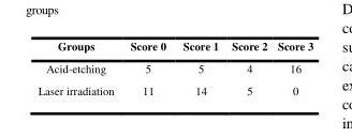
<table><thead><tr><td>Groups</td><td>Score 0</td><td>Score 1</td><td>Score 2</td><td>Score 3</td></tr></thead><tbody><tr><td>Acid-etching</td><td>5</td><td>5</td><td>4</td><td>16</td></tr><tr><td>Laser irradiation</td><td>11</td><td>14</td><td>5</td><td>0</td></tr></tbody></table>